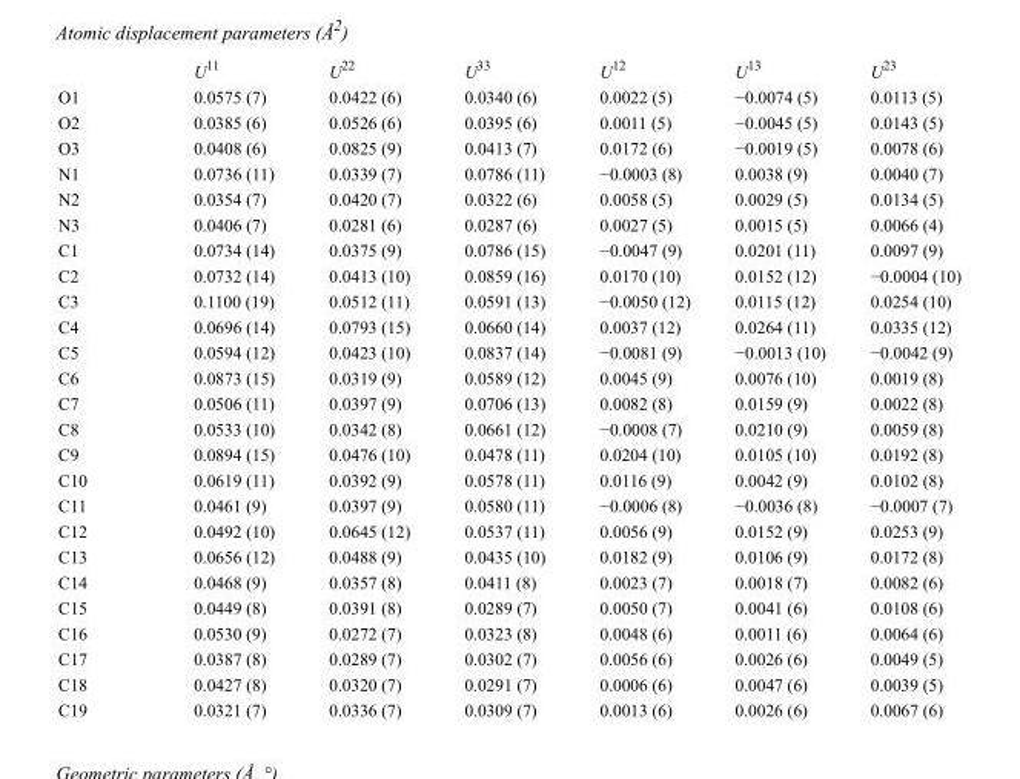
<table><thead><tr><td></td><td>U<sup>11</sup></td><td>U<sup>22</sup></td><td>U<sup>33</sup></td><td>U<sup>12</sup></td><td>U<sup>13</sup></td><td>U<sup>23</sup></td></tr></thead><tbody><tr><td>O1</td><td>0.0575 (7)</td><td>0.0422 (6)</td><td>0.0340 (6)</td><td>0.0022 (5)</td><td>−0.0074 (5)</td><td>0.0113 (5)</td></tr><tr><td>O2</td><td>0.0385 (6)</td><td>0.0526 (6)</td><td>0.0395 (6)</td><td>0.0011 (5)</td><td>−0.0045 (5)</td><td>0.0143 (5)</td></tr><tr><td>O3</td><td>0.0408 (6)</td><td>0.0825 (9)</td><td>0.0413 (7)</td><td>0.0172 (6)</td><td>−0.0019 (5)</td><td>0.0078 (6)</td></tr><tr><td>N1</td><td>0.0736 (11)</td><td>0.0339 (7)</td><td>0.0786 (11)</td><td>−0.0003 (8)</td><td>0.0038 (9)</td><td>0.0040 (7)</td></tr><tr><td>N2</td><td>0.0354 (7)</td><td>0.0420 (7)</td><td>0.0322 (6)</td><td>0.0058 (5)</td><td>0.0029 (5)</td><td>0.0134 (5)</td></tr><tr><td>N3</td><td>0.0406 (7)</td><td>0.0281 (6)</td><td>0.0287 (6)</td><td>0.0027 (5)</td><td>0.0015 (5)</td><td>0.0066 (4)</td></tr><tr><td>C1</td><td>0.0734 (14)</td><td>0.0375 (9)</td><td>0.0786 (15)</td><td>−0.0047 (9)</td><td>0.0201 (11)</td><td>0.0097 (9)</td></tr><tr><td>C2</td><td>0.0732 (14)</td><td>0.0413 (10)</td><td>0.0859 (16)</td><td>0.0170 (10)</td><td>0.0152 (12)</td><td>−0.0004 (10)</td></tr><tr><td>C3</td><td>0.1100 (19)</td><td>0.0512 (11)</td><td>0.0591 (13)</td><td>−0.0050 (12)</td><td>0.0115 (12)</td><td>0.0254 (10)</td></tr><tr><td>C4</td><td>0.0696 (14)</td><td>0.0793 (15)</td><td>0.0660 (14)</td><td>0.0037 (12)</td><td>0.0264 (11)</td><td>0.0335 (12)</td></tr><tr><td>C5</td><td>0.0594 (12)</td><td>0.0423 (10)</td><td>0.0837 (14)</td><td>−0.0081 (9)</td><td>−0.0013 (10)</td><td>−0.0042 (9)</td></tr><tr><td>C6</td><td>0.0873 (15)</td><td>0.0319 (9)</td><td>0.0589 (12)</td><td>0.0045 (9)</td><td>0.0076 (10)</td><td>0.0019 (8)</td></tr><tr><td>C7</td><td>0.0506 (11)</td><td>0.0397 (9)</td><td>0.0706 (13)</td><td>0.0082 (8)</td><td>0.0159 (9)</td><td>0.0022 (8)</td></tr><tr><td>C8</td><td>0.0533 (10)</td><td>0.0342 (8)</td><td>0.0661 (12)</td><td>−0.0008 (7)</td><td>0.0210 (9)</td><td>0.0059 (8)</td></tr><tr><td>C9</td><td>0.0894 (15)</td><td>0.0476 (10)</td><td>0.0478 (11)</td><td>0.0204 (10)</td><td>0.0105 (10)</td><td>0.0192 (8)</td></tr><tr><td>C10</td><td>0.0619 (11)</td><td>0.0392 (9)</td><td>0.0578 (11)</td><td>0.0116 (9)</td><td>0.0042 (9)</td><td>0.0102 (8)</td></tr><tr><td>C11</td><td>0.0461 (9)</td><td>0.0397 (9)</td><td>0.0580 (11)</td><td>−0.0006 (8)</td><td>−0.0036 (8)</td><td>−0.0007 (7)</td></tr><tr><td>C12</td><td>0.0492 (10)</td><td>0.0645 (12)</td><td>0.0537 (11)</td><td>0.0056 (9)</td><td>0.0152 (9)</td><td>0.0253 (9)</td></tr><tr><td>C13</td><td>0.0656 (12)</td><td>0.0488 (9)</td><td>0.0435 (10)</td><td>0.0182 (9)</td><td>0.0106 (9)</td><td>0.0172 (8)</td></tr><tr><td>C14</td><td>0.0468 (9)</td><td>0.0357 (8)</td><td>0.0411 (8)</td><td>0.0023 (7)</td><td>0.0018 (7)</td><td>0.0082 (6)</td></tr><tr><td>C15</td><td>0.0449 (8)</td><td>0.0391 (8)</td><td>0.0289 (7)</td><td>0.0050 (7)</td><td>0.0041 (6)</td><td>0.0108 (6)</td></tr><tr><td>C16</td><td>0.0530 (9)</td><td>0.0272 (7)</td><td>0.0323 (8)</td><td>0.0048 (6)</td><td>0.0011 (6)</td><td>0.0064 (6)</td></tr><tr><td>C17</td><td>0.0387 (8)</td><td>0.0289 (7)</td><td>0.0302 (7)</td><td>0.0056 (6)</td><td>0.0026 (6)</td><td>0.0049 (5)</td></tr><tr><td>C18</td><td>0.0427 (8)</td><td>0.0320 (7)</td><td>0.0291 (7)</td><td>0.0006 (6)</td><td>0.0047 (6)</td><td>0.0039 (5)</td></tr><tr><td>C19</td><td>0.0321 (7)</td><td>0.0336 (7)</td><td>0.0309 (7)</td><td>0.0013 (6)</td><td>0.0026 (6)</td><td>0.0067 (6)</td></tr></tbody></table>